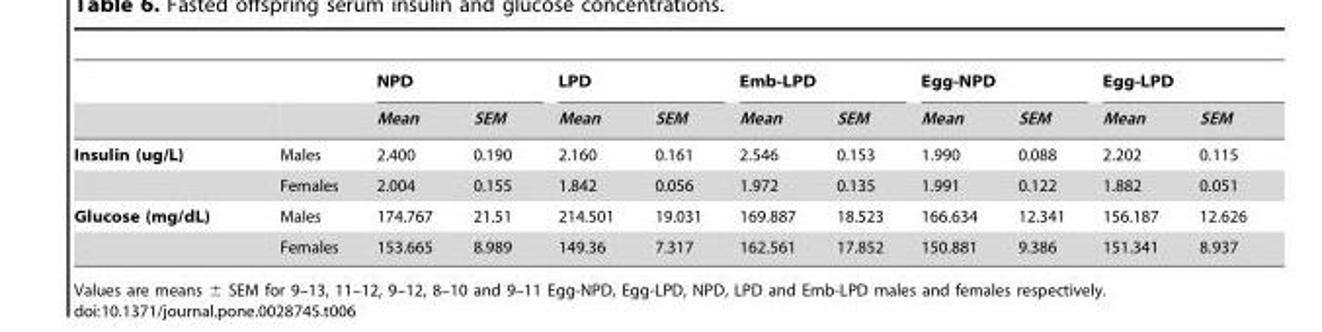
<table><thead><tr><td rowspan="2"></td><td rowspan="2"></td><td colspan="2">NPD</td><td colspan="2">LPD</td><td colspan="2">Emb-LPD</td><td colspan="2">Egg-NPD</td><td colspan="2">Egg-LPD</td></tr><tr><td>Mean</td><td>SEM</td><td>Mean</td><td>SEM</td><td>Mean</td><td>SEM</td><td>Mean</td><td>SEM</td><td>Mean</td><td>SEM</td></tr></thead><tbody><tr><td rowspan="2">Insulin (ug/L)</td><td>Males</td><td>2.400</td><td>0.190</td><td>2.160</td><td>0.161</td><td>2.546</td><td>0.153</td><td>1.990</td><td>0.088</td><td>2.202</td><td>0.115</td></tr><tr><td>Females</td><td>2.004</td><td>0.155</td><td>1.842</td><td>0.056</td><td>1.972</td><td>0.135</td><td>1.991</td><td>0.122</td><td>1.882</td><td>0.051</td></tr><tr><td rowspan="2">Glucose (mg/dL)</td><td>Males</td><td>174.767</td><td>21.51</td><td>214.501</td><td>19.031</td><td>169.887</td><td>18.523</td><td>166.634</td><td>12.341</td><td>156.187</td><td>12.626</td></tr><tr><td>Females</td><td>153.665</td><td>8.989</td><td>149.36</td><td>7.317</td><td>162.561</td><td>17.852</td><td>150.881</td><td>9.386</td><td>151.341</td><td>8.937</td></tr></tbody></table>